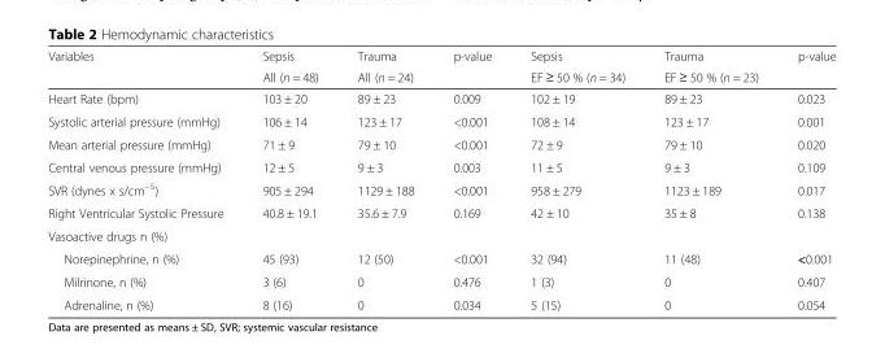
<table><thead><tr><td rowspan="2">Variables</td><td rowspan="2">Sepsis All (n = 48)</td><td rowspan="2">Trauma All (n = 24)</td><td rowspan="2">p-value</td><td rowspan="2">Sepsis EF ≥ 50 % (n = 34)</td><td rowspan="2">Trauma EF ≥ 50 % (n = 23)</td><td rowspan="2">p-value</td></tr><tr></tr></thead><tbody><tr><td>Heart Rate (bpm)</td><td>103 ± 20</td><td>89 ± 23</td><td>0.009</td><td>102 ± 19</td><td>89 ± 23</td><td>0.023</td></tr><tr><td>Systolic arterial pressure (mmHg)</td><td>106 ± 14</td><td>123 ± 17</td><td>&lt;0.001</td><td>108 ± 14</td><td>123 ± 17</td><td>0.001</td></tr><tr><td>Mean arterial pressure (mmHg)</td><td>71 ± 9</td><td>79 ± 10</td><td>&lt;0.001</td><td>72 ± 9</td><td>79 ± 10</td><td>0.020</td></tr><tr><td>Central venous pressure (mmHg)</td><td>12 ± 5</td><td>9 ± 3</td><td>0.003</td><td>11 ± 5</td><td>9 ± 3</td><td>0.109</td></tr><tr><td>SVR (dynes x s/cm<sup>−5</sup>)</td><td>905 ± 294</td><td>1129 ± 188</td><td>&lt;0.001</td><td>958 ± 279</td><td>1123 ± 189</td><td>0.017</td></tr><tr><td>Right Ventricular Systolic Pressure</td><td>40.8 ± 19.1</td><td>35.6 ± 7.9</td><td>0.169</td><td>42 ± 10</td><td>35 ± 8</td><td>0.138</td></tr><tr><td colspan="7">Vasoactive drugs n (%)</td></tr><tr><td>Norepinephrine, n (%)</td><td>45 (93)</td><td>12 (50)</td><td>&lt;0.001</td><td>32 (94)</td><td>11 (48)</td><td>&lt;0.001</td></tr><tr><td>Milrinone, n (%)</td><td>3 (6)</td><td>0</td><td>0.476</td><td>1 (3)</td><td>0</td><td>0.407</td></tr><tr><td>Adrenaline, n (%)</td><td>8 (16)</td><td>0</td><td>0.034</td><td>5 (15)</td><td>0</td><td>0.054</td></tr></tbody></table>